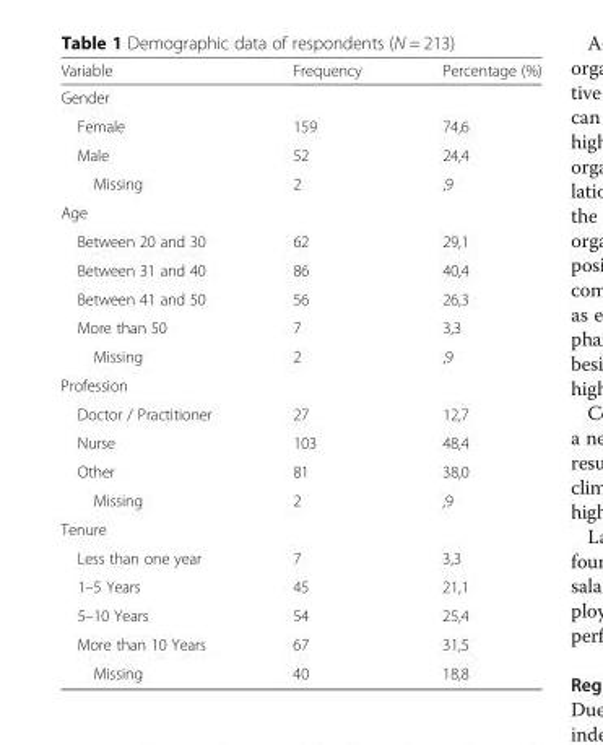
<table><thead><tr><td>Variable</td><td>Frequency</td><td>Percentage (%)</td></tr></thead><tbody><tr><td colspan="3">Gender</td></tr><tr><td>Female</td><td>159</td><td>74,6</td></tr><tr><td>Male</td><td>52</td><td>24,4</td></tr><tr><td>Missing</td><td>2</td><td>,9</td></tr><tr><td colspan="3">Age</td></tr><tr><td>Between 20 and 30</td><td>62</td><td>29,1</td></tr><tr><td>Between 31 and 40</td><td>86</td><td>40,4</td></tr><tr><td>Between 41 and 50</td><td>56</td><td>26,3</td></tr><tr><td>More than 50</td><td>7</td><td>3,3</td></tr><tr><td>Missing</td><td>2</td><td>,9</td></tr><tr><td colspan="3">Profession</td></tr><tr><td>Doctor / Practitioner</td><td>27</td><td>12,7</td></tr><tr><td>Nurse</td><td>103</td><td>48,4</td></tr><tr><td>Other</td><td>81</td><td>38,0</td></tr><tr><td>Missing</td><td>2</td><td>,9</td></tr><tr><td colspan="3">Tenure</td></tr><tr><td>Less than one year</td><td>7</td><td>3,3</td></tr><tr><td>1–5 Years</td><td>45</td><td>21,1</td></tr><tr><td>5–10 Years</td><td>54</td><td>25,4</td></tr><tr><td>More than 10 Years</td><td>67</td><td>31,5</td></tr><tr><td>Missing</td><td>40</td><td>18,8</td></tr></tbody></table>